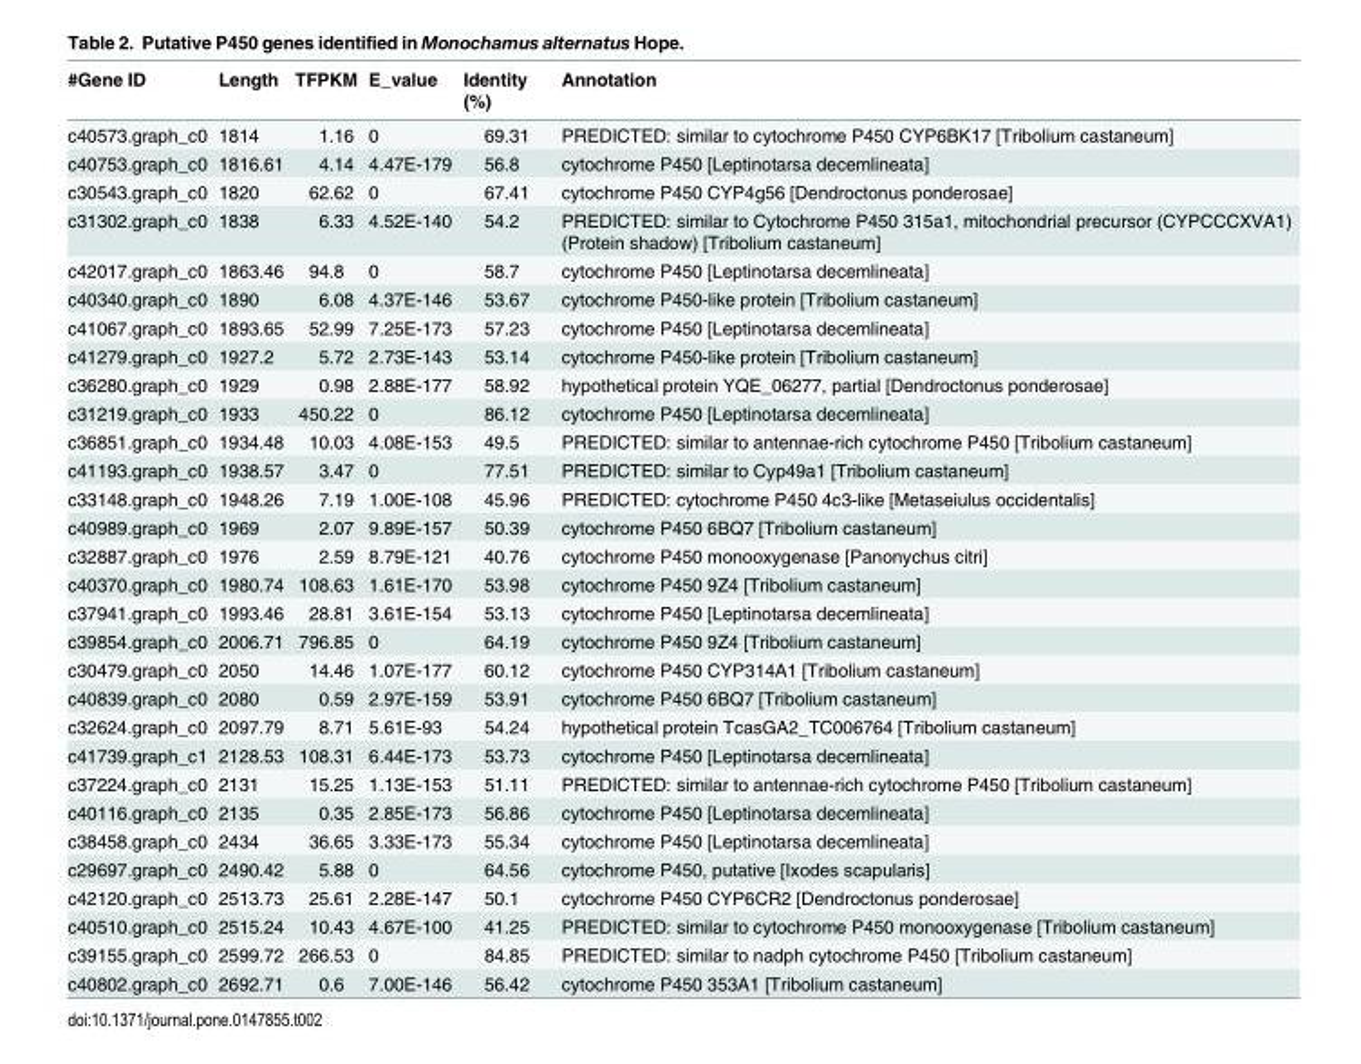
<table><thead><tr><td>#Gene ID</td><td>Length</td><td>TFPKM</td><td>E_value</td><td>Identity (%)</td><td>Annotation</td></tr></thead><tbody><tr><td>c40573.graph_c0</td><td>1814</td><td>1.16</td><td>0</td><td>69.31</td><td>PREDICTED: similar to cytochrome P450 CYP6BK17 [Tribolium castaneum]</td></tr><tr><td>c40753.graph_c0</td><td>1816.61</td><td>4.14</td><td>4.47E-179</td><td>56.8</td><td>cytochrome P450 [Leptinotarsa decemlineata]</td></tr><tr><td>c30543.graph_c0</td><td>1820</td><td>62.62</td><td>0</td><td>67.41</td><td>cytochrome P450 CYP4g56 [Dendroctonus ponderosae]</td></tr><tr><td>c31302.graph_c0</td><td>1838</td><td>6.33</td><td>4.52E-140</td><td>54.2</td><td>PREDICTED: similar to Cytochrome P450 315a1, mitochondrial precursor (CYPCCCXVA1) (Protein shadow) [Tribolium castaneum]</td></tr><tr><td>c42017.graph_c0</td><td>1863.46</td><td>94.8</td><td>0</td><td>58.7</td><td>cytochrome P450 [Leptinotarsa decemlineata]</td></tr><tr><td>c40340.graph_c0</td><td>1890</td><td>6.08</td><td>4.37E-146</td><td>53.67</td><td>cytochrome P450-like protein [Tribolium castaneum]</td></tr><tr><td>c41067.graph_c0</td><td>1893.65</td><td>52.99</td><td>7.25E-173</td><td>57.23</td><td>cytochrome P450 [Leptinotarsa decemlineata]</td></tr><tr><td>c41279.graph_c0</td><td>1927.2</td><td>5.72</td><td>2.73E-143</td><td>53.14</td><td>cytochrome P450-like protein [Tribolium castaneum]</td></tr><tr><td>c36280.graph_c0</td><td>1929</td><td>0.98</td><td>2.88E-177</td><td>58.92</td><td>hypothetical protein YQE_06277, partial [Dendroctonus ponderosae]</td></tr><tr><td>c31219.graph_c0</td><td>1933</td><td>450.22</td><td>0</td><td>86.12</td><td>cytochrome P450 [Leptinotarsa decemlineata]</td></tr><tr><td>c36851.graph_c0</td><td>1934.48</td><td>10.03</td><td>4.08E-153</td><td>49.5</td><td>PREDICTED: similar to antennae-rich cytochrome P450 [Tribolium castaneum]</td></tr><tr><td>c41193.graph_c0</td><td>1938.57</td><td>3.47</td><td>0</td><td>77.51</td><td>PREDICTED: similar to Cyp49a1 [Tribolium castaneum]</td></tr><tr><td>c33148.graph_c0</td><td>1948.26</td><td>7.19</td><td>1.00E-108</td><td>45.96</td><td>PREDICTED: cytochrome P450 4c3-like [Metaseiulus occidentalis]</td></tr><tr><td>c40989.graph_c0</td><td>1969</td><td>2.07</td><td>9.89E-157</td><td>50.39</td><td>cytochrome P450 6BQ7 [Tribolium castaneum]</td></tr><tr><td>c32887.graph_c0</td><td>1976</td><td>2.59</td><td>8.79E-121</td><td>40.76</td><td>cytochrome P450 monooxygenase [Panonychus citri]</td></tr><tr><td>c40370.graph_c0</td><td>1980.74</td><td>108.63</td><td>1.61E-170</td><td>53.98</td><td>cytochrome P450 9Z4 [Tribolium castaneum]</td></tr><tr><td>c37941.graph_c0</td><td>1993.46</td><td>28.81</td><td>3.61E-154</td><td>53.13</td><td>cytochrome P450 [Leptinotarsa decemlineata]</td></tr><tr><td>c39854.graph_c0</td><td>2006.71</td><td>796.85</td><td>0</td><td>64.19</td><td>cytochrome P450 9Z4 [Tribolium castaneum]</td></tr><tr><td>c30479.graph_c0</td><td>2050</td><td>14.46</td><td>1.07E-177</td><td>60.12</td><td>cytochrome P450 CYP314A1 [Tribolium castaneum]</td></tr><tr><td>c40839.graph_c0</td><td>2080</td><td>0.59</td><td>2.97E-159</td><td>53.91</td><td>cytochrome P450 6BQ7 [Tribolium castaneum]</td></tr><tr><td>c32624.graph_c0</td><td>2097.79</td><td>8.71</td><td>5.61E-93</td><td>54.24</td><td>hypothetical protein TcasGA2_TC006764 [Tribolium castaneum]</td></tr><tr><td>c41739.graph_c1</td><td>2128.53</td><td>108.31</td><td>6.44E-173</td><td>53.73</td><td>cytochrome P450 [Leptinotarsa decemlineata]</td></tr><tr><td>c37224.graph_c0</td><td>2131</td><td>15.25</td><td>1.13E-153</td><td>51.11</td><td>PREDICTED: similar to antennae-rich cytochrome P450 [Tribolium castaneum]</td></tr><tr><td>c40116.graph_c0</td><td>2135</td><td>0.35</td><td>2.85E-173</td><td>56.86</td><td>cytochrome P450 [Leptinotarsa decemlineata]</td></tr><tr><td>c38458.graph_c0</td><td>2434</td><td>36.65</td><td>3.33E-173</td><td>55.34</td><td>cytochrome P450 [Leptinotarsa decemlineata]</td></tr><tr><td>c29697.graph_c0</td><td>2490.42</td><td>5.88</td><td>0</td><td>64.56</td><td>cytochrome P450, putative [Ixodes scapularis]</td></tr><tr><td>c42120.graph_c0</td><td>2513.73</td><td>25.61</td><td>2.28E-147</td><td>50.1</td><td>cytochrome P450 CYP6CR2 [Dendroctonus ponderosae]</td></tr><tr><td>c40510.graph_c0</td><td>2515.24</td><td>10.43</td><td>4.67E-100</td><td>41.25</td><td>PREDICTED: similar to cytochrome P450 monooxygenase [Tribolium castaneum]</td></tr><tr><td>c39155.graph_c0</td><td>2599.72</td><td>266.53</td><td>0</td><td>84.85</td><td>PREDICTED: similar to nadph cytochrome P450 [Tribolium castaneum]</td></tr><tr><td>c40802.graph_c0</td><td>2692.71</td><td>0.6</td><td>7.00E-146</td><td>56.42</td><td>cytochrome P450 353A1 [Tribolium castaneum]</td></tr></tbody></table>